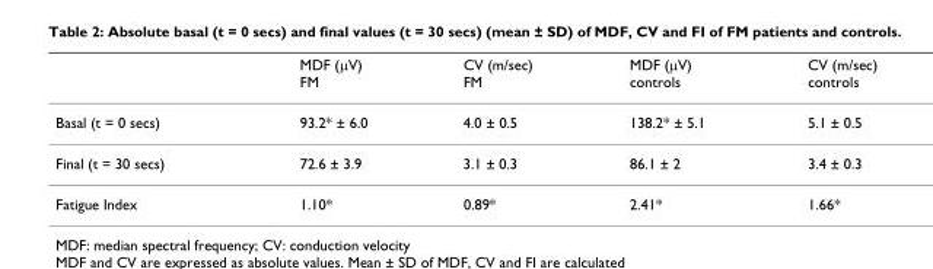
<table><thead><tr><td></td><td>MDF (μV) FM</td><td>CV (m/sec) FM</td><td>MDF (μV) controls</td><td>CV (m/sec) controls</td></tr></thead><tbody><tr><td>Basal (t = 0 secs)</td><td>93.2* ± 6.0</td><td>4.0 ± 0.5</td><td>138.2* ± 5.1</td><td>5.1 ± 0.5</td></tr><tr><td>Final (t = 30 secs)</td><td>72.6 ± 3.9</td><td>3.1 ± 0.3</td><td>86.1 ± 2</td><td>3.4 ± 0.3</td></tr><tr><td>Fatigue Index</td><td>1.10*</td><td>0.89*</td><td>2.41*</td><td>1.66*</td></tr></tbody></table>